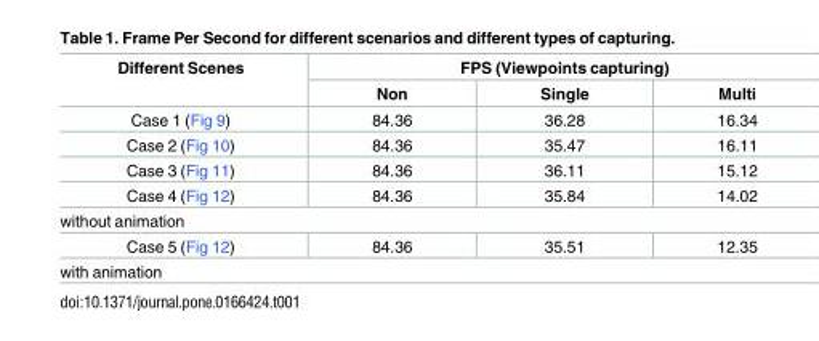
<table><thead><tr><td rowspan="2">Different Scenes</td><td colspan="3">FPS (Viewpoints capturing)</td></tr><tr><td>Non</td><td>Single</td><td>Multi</td></tr></thead><tbody><tr><td>Case 1 (Fig 9)</td><td>84.36</td><td>36.28</td><td>16.34</td></tr><tr><td>Case 2 (Fig 10)</td><td>84.36</td><td>35.47</td><td>16.11</td></tr><tr><td>Case 3 (Fig 11)</td><td>84.36</td><td>36.11</td><td>15.12</td></tr><tr><td>Case 4 (Fig 12)</td><td>84.36</td><td>35.84</td><td>14.02</td></tr><tr><td colspan="4">without animation</td></tr><tr><td>Case 5 (Fig 12)</td><td>84.36</td><td>35.51</td><td>12.35</td></tr><tr><td colspan="4">with animation</td></tr></tbody></table>